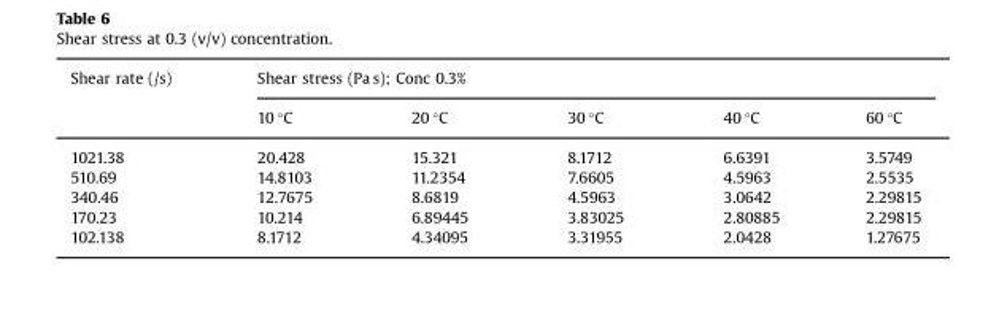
<table><thead><tr><td rowspan="2">Shear rate (/s)</td><td colspan="5">Shear stress (Pa s); Conc 0.3%</td></tr><tr><td>10 °C</td><td>20 °C</td><td>30 °C</td><td>40 °C</td><td>60 °C</td></tr></thead><tbody><tr><td>1021.38</td><td>20.428</td><td>15.321</td><td>8.1712</td><td>6.6391</td><td>3.5749</td></tr><tr><td>510.69</td><td>14.8103</td><td>11.2354</td><td>7.6605</td><td>4.5963</td><td>2.5535</td></tr><tr><td>340.46</td><td>12.7675</td><td>8.6819</td><td>4.5963</td><td>3.0642</td><td>2.29815</td></tr><tr><td>170.23</td><td>10.214</td><td>6.89445</td><td>3.83025</td><td>2.80885</td><td>2.29815</td></tr><tr><td>102.138</td><td>8.1712</td><td>4.34095</td><td>3.31955</td><td>2.0428</td><td>1.27675</td></tr></tbody></table>